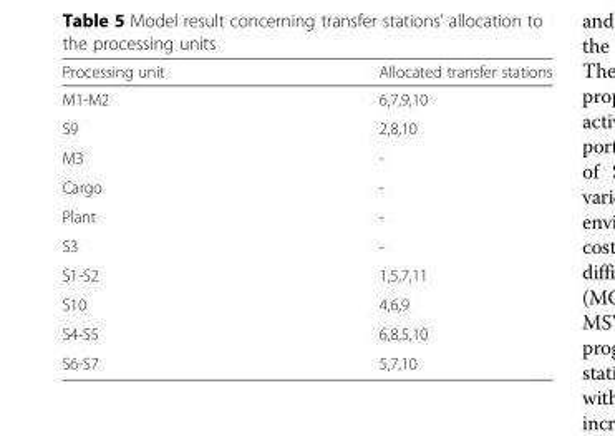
<table><thead><tr><td>Processing unit</td><td>Allocated transfer stations</td></tr></thead><tbody><tr><td>M1-M2</td><td>6,7,9,10</td></tr><tr><td>S9</td><td>2,8,10</td></tr><tr><td>M3</td><td>-</td></tr><tr><td>Cargo</td><td>-</td></tr><tr><td>Plant</td><td>-</td></tr><tr><td>S3</td><td>-</td></tr><tr><td>S1-S2</td><td>1,5,7,11</td></tr><tr><td>S10</td><td>4,6,9</td></tr><tr><td>S4-S5</td><td>6,8,5,10</td></tr><tr><td>S6-S7</td><td>5,7,10</td></tr></tbody></table>